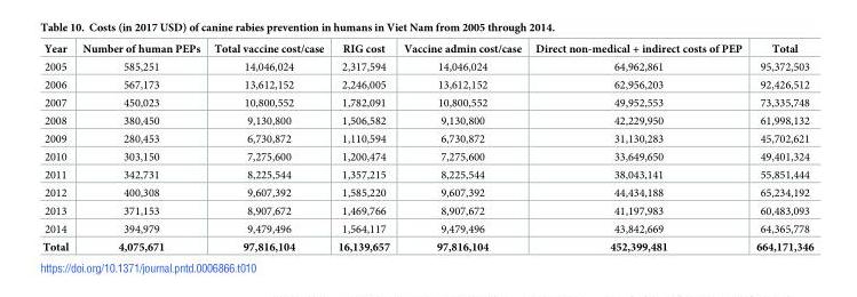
<table><thead><tr><td>Year</td><td>Number of human PEPs</td><td>Total vaccine cost/case</td><td>RIG cost</td><td>Vaccine admin cost/case</td><td>Direct non-medical + indirect costs of PEP</td><td>Total</td></tr></thead><tbody><tr><td>2005</td><td>585,251</td><td>14,046,024</td><td>2,317,594</td><td>14,046,024</td><td>64,962,861</td><td>95,372,503</td></tr><tr><td>2006</td><td>567,173</td><td>13,612,152</td><td>2,246,005</td><td>13,612,152</td><td>62,956,203</td><td>92,426,512</td></tr><tr><td>2007</td><td>450,023</td><td>10,800,552</td><td>1,782,091</td><td>10,800,552</td><td>49,952,553</td><td>73,335,748</td></tr><tr><td>2008</td><td>380,450</td><td>9,130,800</td><td>1,506,582</td><td>9,130,800</td><td>42,229,950</td><td>61,998,132</td></tr><tr><td>2009</td><td>280,453</td><td>6,730,872</td><td>1,110,594</td><td>6,730,872</td><td>31,130,283</td><td>45,702,621</td></tr><tr><td>2010</td><td>303,150</td><td>7,275,600</td><td>1,200,474</td><td>7,275,600</td><td>33,649,650</td><td>49,401,324</td></tr><tr><td>2011</td><td>342,731</td><td>8,225,544</td><td>1,357,215</td><td>8,225,544</td><td>38,043,141</td><td>55,851,444</td></tr><tr><td>2012</td><td>400,308</td><td>9,607,392</td><td>1,585,220</td><td>9,607,392</td><td>44,434,188</td><td>65,234,192</td></tr><tr><td>2013</td><td>371,153</td><td>8,907,672</td><td>1,469,766</td><td>8,907,672</td><td>41,197,983</td><td>60,483,093</td></tr><tr><td>2014</td><td>394,979</td><td>9,479,496</td><td>1,564,117</td><td>9,479,496</td><td>43,842,669</td><td>64,365,778</td></tr><tr><td>Total</td><td>4,075,671</td><td>97,816,104</td><td>16,139,657</td><td>97,816,104</td><td>452,399,481</td><td>664,171,346</td></tr></tbody></table>